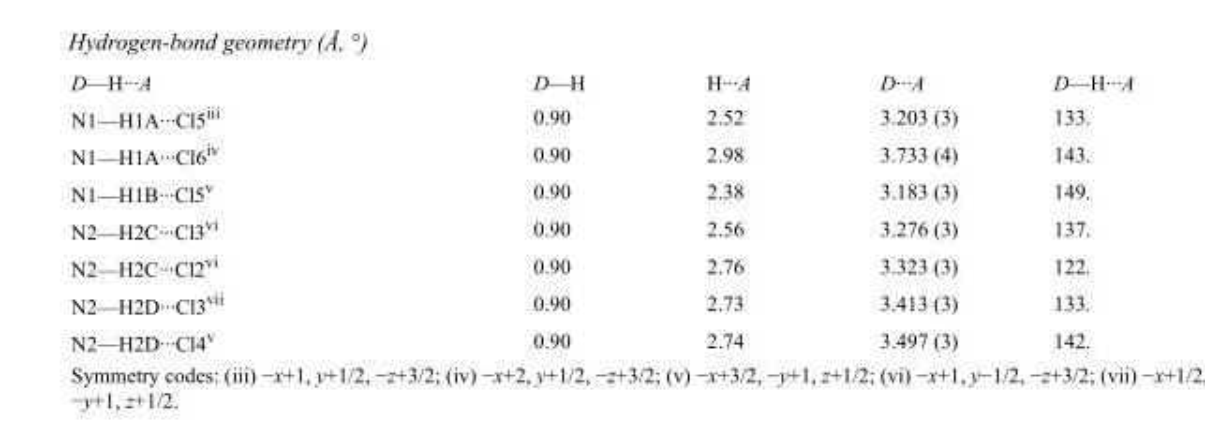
<table><tbody><tr><td>D—H···A</td><td>D—H</td><td>H···A</td><td>D···A</td><td>D—H···A</td></tr><tr><td>N1—H1A···Cl5<sup>iii</sup></td><td>0.90</td><td>2.52</td><td>3.203 (3)</td><td>133.</td></tr><tr><td>N1—H1A···Cl6<sup>iv</sup></td><td>0.90</td><td>2.98</td><td>3.733 (4)</td><td>143.</td></tr><tr><td>N1—H1B···Cl5<sup>v</sup></td><td>0.90</td><td>2.38</td><td>3.183 (3)</td><td>149.</td></tr><tr><td>N2—H2C···Cl3<sup>vi</sup></td><td>0.90</td><td>2.56</td><td>3.276 (3)</td><td>137.</td></tr><tr><td>N2—H2C···Cl2<sup>vi</sup></td><td>0.90</td><td>2.76</td><td>3.323 (3)</td><td>122.</td></tr><tr><td>N2—H2D···Cl3<sup>vii</sup></td><td>0.90</td><td>2.73</td><td>3.413 (3)</td><td>133.</td></tr><tr><td>N2—H2D···Cl4<sup>v</sup></td><td>0.90</td><td>2.74</td><td>3.497 (3)</td><td>142.</td></tr></tbody></table>